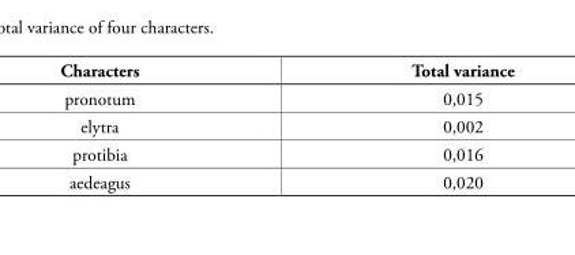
<table><thead><tr><td>Characters</td><td>Total variance</td></tr></thead><tbody><tr><td>pronotum</td><td>0,015</td></tr><tr><td>elytra</td><td>0,002</td></tr><tr><td>protibia</td><td>0,016</td></tr><tr><td>aedeagus</td><td>0,020</td></tr></tbody></table>